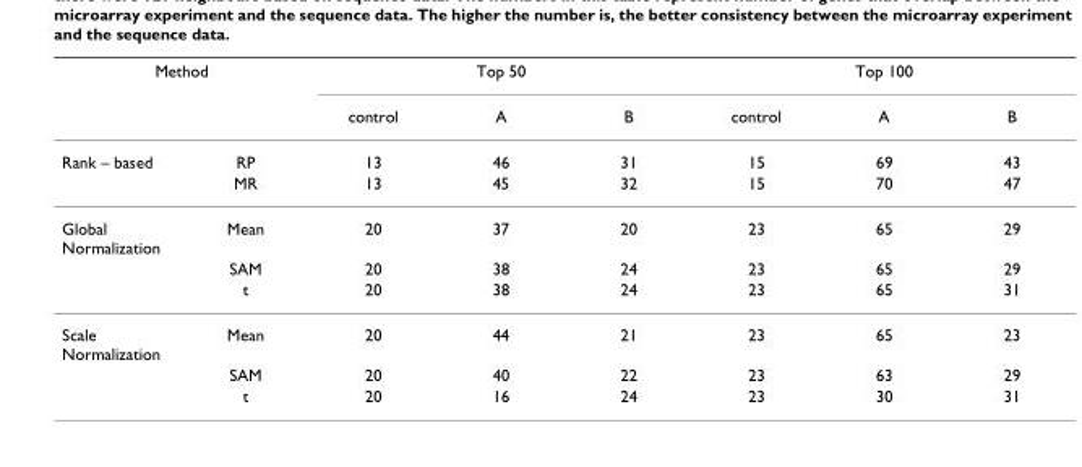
<table><thead><tr><td colspan="2">Method</td><td colspan="3">Top 50</td><td colspan="3">Top 100</td></tr><tr><td></td><td></td><td>control</td><td>A</td><td>B</td><td>control</td><td>A</td><td>B</td></tr></thead><tbody><tr><td rowspan="2">Rank – based</td><td>RP</td><td>13</td><td>46</td><td>31</td><td>15</td><td>69</td><td>43</td></tr><tr><td>MR</td><td>13</td><td>45</td><td>32</td><td>15</td><td>70</td><td>47</td></tr><tr><td rowspan="3">Global Normalization</td><td>Mean</td><td>20</td><td>37</td><td>20</td><td>23</td><td>65</td><td>29</td></tr><tr><td>SAM</td><td>20</td><td>38</td><td>24</td><td>23</td><td>65</td><td>29</td></tr><tr><td>t</td><td>20</td><td>38</td><td>24</td><td>23</td><td>65</td><td>31</td></tr><tr><td rowspan="3">Scale Normalization</td><td>Mean</td><td>20</td><td>44</td><td>21</td><td>23</td><td>65</td><td>23</td></tr><tr><td>SAM</td><td>20</td><td>40</td><td>22</td><td>23</td><td>63</td><td>29</td></tr><tr><td>t</td><td>20</td><td>16</td><td>24</td><td>23</td><td>30</td><td>31</td></tr></tbody></table>